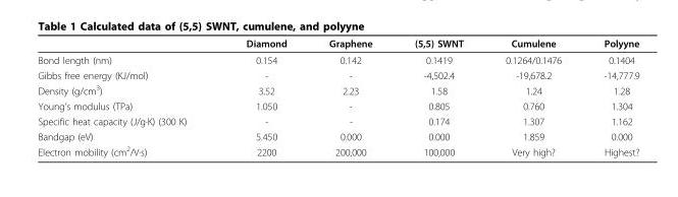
<table><thead><tr><td></td><td>Diamond</td><td>Graphene</td><td>(5,5) SWNT</td><td>Cumulene</td><td>Polyyne</td></tr></thead><tbody><tr><td>Bond length (nm)</td><td>0.154</td><td>0.142</td><td>0.1419</td><td>0.1264/0.1476</td><td>0.1404</td></tr><tr><td>Gibbs free energy (KJ/mol)</td><td>-</td><td>-</td><td>-4,502.4</td><td>-19,678.2</td><td>-14,777.9</td></tr><tr><td>Density (g/cm<sup>3</sup>)</td><td>3.52</td><td>2.23</td><td>1.58</td><td>1.24</td><td>1.28</td></tr><tr><td>Young’s modulus (TPa)</td><td>1.050</td><td>-</td><td>0.805</td><td>0.760</td><td>1.304</td></tr><tr><td>Specific heat capacity (J/g·K) (300 K)</td><td>-</td><td>-</td><td>0.174</td><td>1.307</td><td>1.162</td></tr><tr><td>Bandgap (eV)</td><td>5.450</td><td>0.000</td><td>0.000</td><td>1.859</td><td>0.000</td></tr><tr><td>Electron mobility (cm<sup>2</sup>/V·s)</td><td>2200</td><td>200,000</td><td>100,000</td><td>Very high?</td><td>Highest?</td></tr></tbody></table>